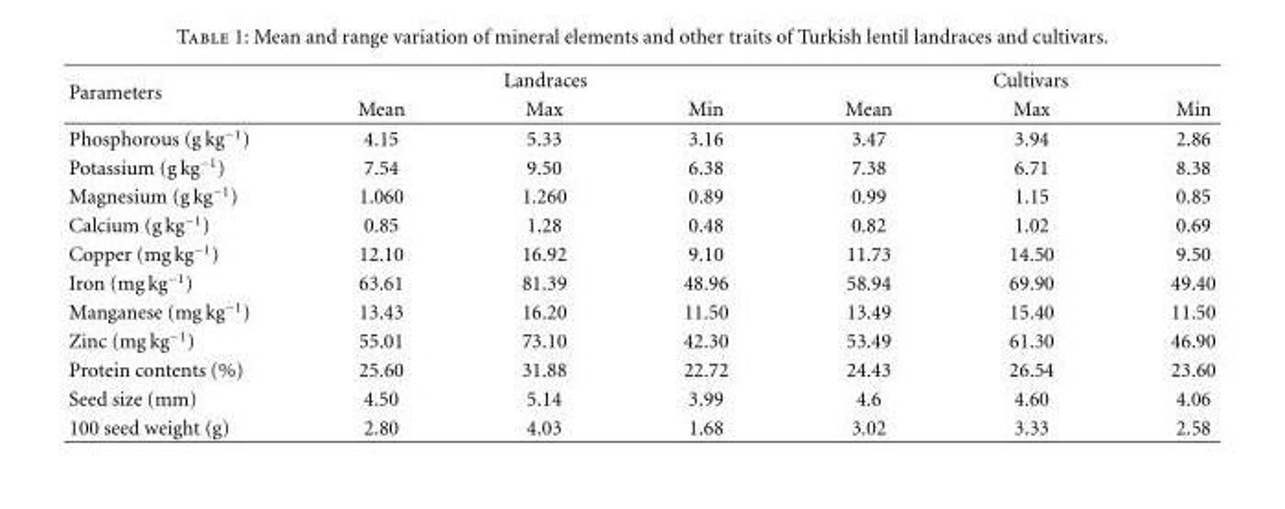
<table><thead><tr><td rowspan="2">Parameters</td><td colspan="3">Landraces</td><td colspan="3">Cultivars</td></tr><tr><td>Mean</td><td>Max</td><td>Min</td><td>Mean</td><td>Max</td><td>Min</td></tr></thead><tbody><tr><td>Phosphorous (g kg<sup>−1</sup>)</td><td>4.15</td><td>5.33</td><td>3.16</td><td>3.47</td><td>3.94</td><td>2.86</td></tr><tr><td>Potassium (g kg<sup>−1</sup>)</td><td>7.54</td><td>9.50</td><td>6.38</td><td>7.38</td><td>6.71</td><td>8.38</td></tr><tr><td>Magnesium (g kg<sup>−1</sup>)</td><td>1.060</td><td>1.260</td><td>0.89</td><td>0.99</td><td>1.15</td><td>0.85</td></tr><tr><td>Calcium (g kg<sup>−1</sup>)</td><td>0.85</td><td>1.28</td><td>0.48</td><td>0.82</td><td>1.02</td><td>0.69</td></tr><tr><td>Copper (mg kg<sup>−1</sup>)</td><td>12.10</td><td>16.92</td><td>9.10</td><td>11.73</td><td>14.50</td><td>9.50</td></tr><tr><td>Iron (mg kg<sup>−1</sup>)</td><td>63.61</td><td>81.39</td><td>48.96</td><td>58.94</td><td>69.90</td><td>49.40</td></tr><tr><td>Manganese (mg kg<sup>−1</sup>)</td><td>13.43</td><td>16.20</td><td>11.50</td><td>13.49</td><td>15.40</td><td>11.50</td></tr><tr><td>Zinc (mg kg<sup>−1</sup>)</td><td>55.01</td><td>73.10</td><td>42.30</td><td>53.49</td><td>61.30</td><td>46.90</td></tr><tr><td>Protein contents (%)</td><td>25.60</td><td>31.88</td><td>22.72</td><td>24.43</td><td>26.54</td><td>23.60</td></tr><tr><td>Seed size (mm)</td><td>4.50</td><td>5.14</td><td>3.99</td><td>4.6</td><td>4.60</td><td>4.06</td></tr><tr><td>100 seed weight (g)</td><td>2.80</td><td>4.03</td><td>1.68</td><td>3.02</td><td>3.33</td><td>2.58</td></tr></tbody></table>